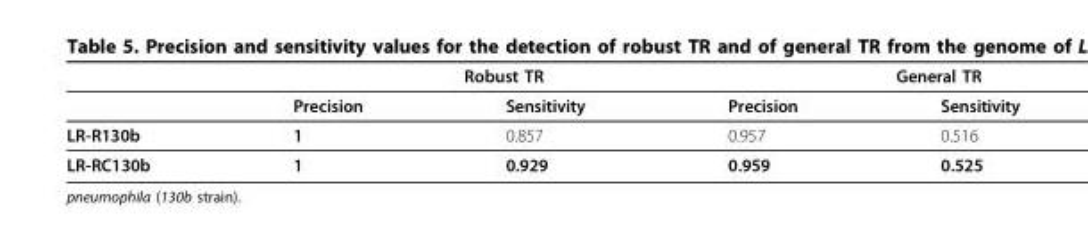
<table><thead><tr><td rowspan="2"></td><td colspan="2">Robust TR</td><td colspan="2">General TR</td></tr><tr><td>Precision</td><td>Sensitivity</td><td>Precision</td><td>Sensitivity</td></tr></thead><tbody><tr><td>LR-R130b</td><td>1</td><td>0.857</td><td>0.957</td><td>0.516</td></tr><tr><td>LR-RC130b</td><td>1</td><td>0.929</td><td>0.959</td><td>0.525</td></tr></tbody></table>